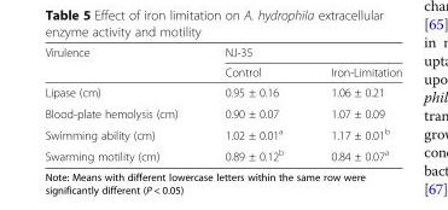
<table><thead><tr><td rowspan="2">Virulence</td><td colspan="2">NJ-35</td></tr><tr><td>Control</td><td>Iron-Limitation</td></tr></thead><tbody><tr><td>Lipase (cm)</td><td>0.95 ± 0.16</td><td>1.06 ± 0.21</td></tr><tr><td>Blood-plate hemolysis (cm)</td><td>0.90 ± 0.07</td><td>1.07 ± 0.09</td></tr><tr><td>Swimming ability (cm)</td><td>1.02 ± 0.01<sup>a</sup></td><td>1.17 ± 0.01<sup>b</sup></td></tr><tr><td>Swarming motility (cm)</td><td>0.89 ± 0.12<sup>b</sup></td><td>0.84 ± 0.07<sup>a</sup></td></tr></tbody></table>